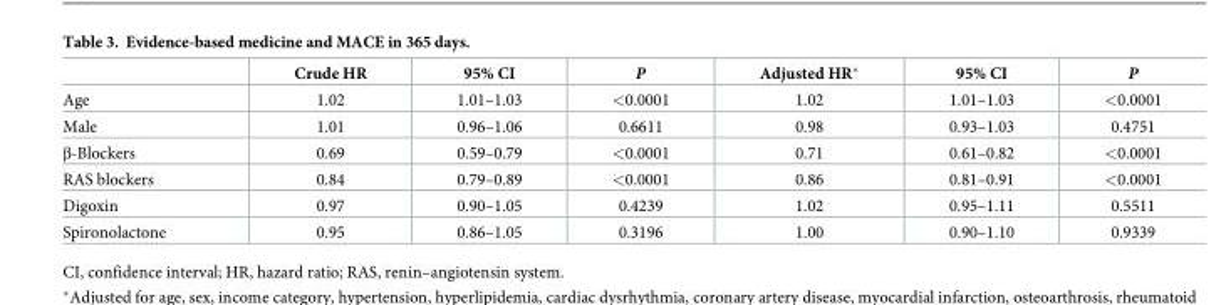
<table><thead><tr><td></td><td>Crude HR</td><td>95% CI</td><td>P</td><td>Adjusted HR*</td><td>95% CI</td><td>P</td></tr></thead><tbody><tr><td>Age</td><td>1.02</td><td>1.01–1.03</td><td>&lt;0.0001</td><td>1.02</td><td>1.01–1.03</td><td>&lt;0.0001</td></tr><tr><td>Male</td><td>1.01</td><td>0.96–1.06</td><td>0.6611</td><td>0.98</td><td>0.93–1.03</td><td>0.4751</td></tr><tr><td>β-Blockers</td><td>0.69</td><td>0.59–0.79</td><td>&lt;0.0001</td><td>0.71</td><td>0.61–0.82</td><td>&lt;0.0001</td></tr><tr><td>RAS blockers</td><td>0.84</td><td>0.79–0.89</td><td>&lt;0.0001</td><td>0.86</td><td>0.81–0.91</td><td>&lt;0.0001</td></tr><tr><td>Digoxin</td><td>0.97</td><td>0.90–1.05</td><td>0.4239</td><td>1.02</td><td>0.95–1.11</td><td>0.5511</td></tr><tr><td>Spironolactone</td><td>0.95</td><td>0.86–1.05</td><td>0.3196</td><td>1.00</td><td>0.90–1.10</td><td>0.9339</td></tr></tbody></table>